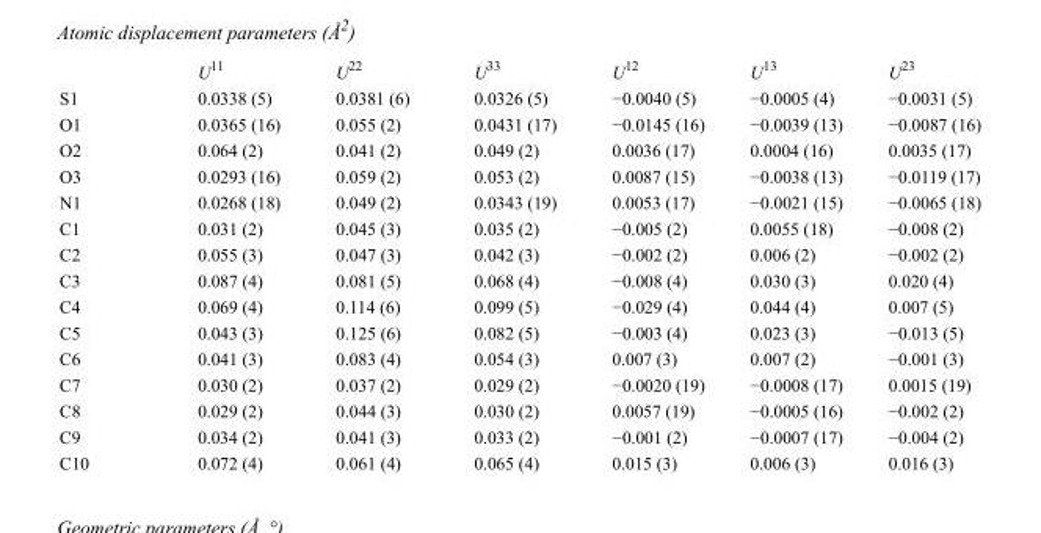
<table><thead><tr><td></td><td>U<sup>11</sup></td><td>U<sup>22</sup></td><td>U<sup>33</sup></td><td>U<sup>12</sup></td><td>U<sup>13</sup></td><td>U<sup>23</sup></td></tr></thead><tbody><tr><td>S1</td><td>0.0338 (5)</td><td>0.0381 (6)</td><td>0.0326 (5)</td><td>−0.0040 (5)</td><td>−0.0005 (4)</td><td>−0.0031 (5)</td></tr><tr><td>O1</td><td>0.0365 (16)</td><td>0.055 (2)</td><td>0.0431 (17)</td><td>−0.0145 (16)</td><td>−0.0039 (13)</td><td>−0.0087 (16)</td></tr><tr><td>O2</td><td>0.064 (2)</td><td>0.041 (2)</td><td>0.049 (2)</td><td>0.0036 (17)</td><td>0.0004 (16)</td><td>0.0035 (17)</td></tr><tr><td>O3</td><td>0.0293 (16)</td><td>0.059 (2)</td><td>0.053 (2)</td><td>0.0087 (15)</td><td>−0.0038 (13)</td><td>−0.0119 (17)</td></tr><tr><td>N1</td><td>0.0268 (18)</td><td>0.049 (2)</td><td>0.0343 (19)</td><td>0.0053 (17)</td><td>−0.0021 (15)</td><td>−0.0065 (18)</td></tr><tr><td>C1</td><td>0.031 (2)</td><td>0.045 (3)</td><td>0.035 (2)</td><td>−0.005 (2)</td><td>0.0055 (18)</td><td>−0.008 (2)</td></tr><tr><td>C2</td><td>0.055 (3)</td><td>0.047 (3)</td><td>0.042 (3)</td><td>−0.002 (2)</td><td>0.006 (2)</td><td>−0.002 (2)</td></tr><tr><td>C3</td><td>0.087 (4)</td><td>0.081 (5)</td><td>0.068 (4)</td><td>−0.008 (4)</td><td>0.030 (3)</td><td>0.020 (4)</td></tr><tr><td>C4</td><td>0.069 (4)</td><td>0.114 (6)</td><td>0.099 (5)</td><td>−0.029 (4)</td><td>0.044 (4)</td><td>0.007 (5)</td></tr><tr><td>C5</td><td>0.043 (3)</td><td>0.125 (6)</td><td>0.082 (5)</td><td>−0.003 (4)</td><td>0.023 (3)</td><td>−0.013 (5)</td></tr><tr><td>C6</td><td>0.041 (3)</td><td>0.083 (4)</td><td>0.054 (3)</td><td>0.007 (3)</td><td>0.007 (2)</td><td>−0.001 (3)</td></tr><tr><td>C7</td><td>0.030 (2)</td><td>0.037 (2)</td><td>0.029 (2)</td><td>−0.0020 (19)</td><td>−0.0008 (17)</td><td>0.0015 (19)</td></tr><tr><td>C8</td><td>0.029 (2)</td><td>0.044 (3)</td><td>0.030 (2)</td><td>0.0057 (19)</td><td>−0.0005 (16)</td><td>−0.002 (2)</td></tr><tr><td>C9</td><td>0.034 (2)</td><td>0.041 (3)</td><td>0.033 (2)</td><td>−0.001 (2)</td><td>−0.0007 (17)</td><td>−0.004 (2)</td></tr><tr><td>C10</td><td>0.072 (4)</td><td>0.061 (4)</td><td>0.065 (4)</td><td>0.015 (3)</td><td>0.006 (3)</td><td>0.016 (3)</td></tr></tbody></table>